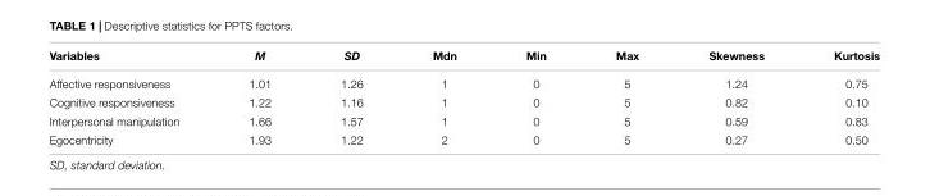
<table><thead><tr><td>Variables</td><td>M</td><td>SD</td><td>Mdn</td><td>Min</td><td>Max</td><td>Skewness</td><td>Kurtosis</td></tr></thead><tbody><tr><td>Affective responsiveness</td><td>1.01</td><td>1.26</td><td>1</td><td>0</td><td>5</td><td>1.24</td><td>0.75</td></tr><tr><td>Cognitive responsiveness</td><td>1.22</td><td>1.16</td><td>1</td><td>0</td><td>5</td><td>0.82</td><td>0.10</td></tr><tr><td>Interpersonal manipulation</td><td>1.66</td><td>1.57</td><td>1</td><td>0</td><td>5</td><td>0.59</td><td>0.83</td></tr><tr><td>Egocentricity</td><td>1.93</td><td>1.22</td><td>2</td><td>0</td><td>5</td><td>0.27</td><td>0.50</td></tr></tbody></table>